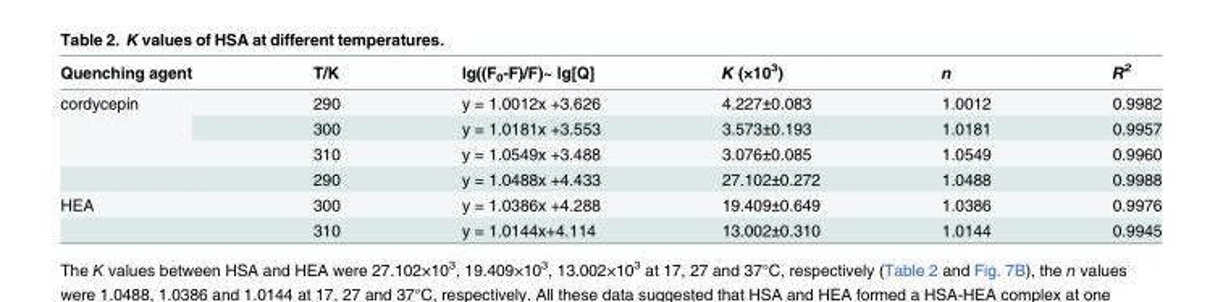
<table><thead><tr><td>Quenching agent</td><td>T/K</td><td>lg((F<sub>0</sub>-F)/F)~ lg[Q]</td><td>K (×10<sup>3</sup>)</td><td>n</td><td>R<sup>2</sup></td></tr></thead><tbody><tr><td rowspan="4">cordycepin</td><td>290</td><td>y = 1.0012x +3.626</td><td>4.227±0.083</td><td>1.0012</td><td>0.9982</td></tr><tr><td>300</td><td>y = 1.0181x +3.553</td><td>3.573±0.193</td><td>1.0181</td><td>0.9957</td></tr><tr><td>310</td><td>y = 1.0549x +3.488</td><td>3.076±0.085</td><td>1.0549</td><td>0.9960</td></tr><tr><td>290</td><td>y = 1.0488x +4.433</td><td>27.102±0.272</td><td>1.0488</td><td>0.9988</td></tr><tr><td rowspan="2">HEA</td><td>300</td><td>y = 1.0386x +4.288</td><td>19.409±0.649</td><td>1.0386</td><td>0.9976</td></tr><tr><td>310</td><td>y = 1.0144x+4.114</td><td>13.002±0.310</td><td>1.0144</td><td>0.9945</td></tr></tbody></table>